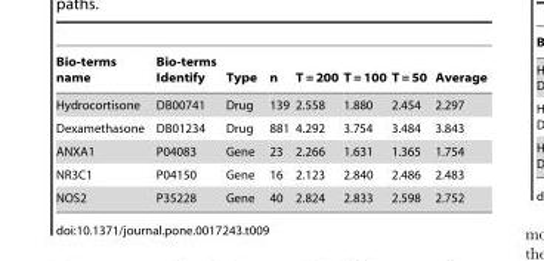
<table><thead><tr><td>Bio-terms name</td><td>Bio-terms Identify</td><td>Type</td><td>n</td><td>T = 200</td><td>T = 100</td><td>T = 50</td><td>Average</td></tr></thead><tbody><tr><td>Hydrocortisone</td><td>DB00741</td><td>Drug</td><td>139</td><td>2.558</td><td>1.880</td><td>2.454</td><td>2.297</td></tr><tr><td>Dexamethasone</td><td>DB01234</td><td>Drug</td><td>881</td><td>4.292</td><td>3.754</td><td>3.484</td><td>3.843</td></tr><tr><td>ANXA1</td><td>P04083</td><td>Gene</td><td>23</td><td>2.266</td><td>1.631</td><td>1.365</td><td>1.754</td></tr><tr><td>NR3C1</td><td>P04150</td><td>Gene</td><td>16</td><td>2.123</td><td>2.840</td><td>2.486</td><td>2.483</td></tr><tr><td>NOS2</td><td>P35228</td><td>Gene</td><td>40</td><td>2.824</td><td>2.833</td><td>2.598</td><td>2.752</td></tr></tbody></table>